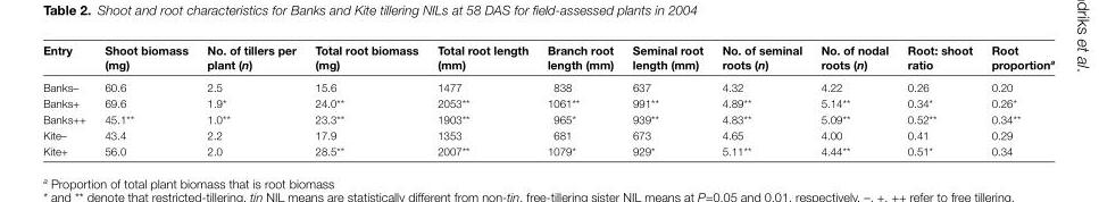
<table><thead><tr><td>Entry</td><td>Shoot biomass (mg)</td><td>No. of tillers per plant (n)</td><td>Total root biomass (mg)</td><td>Total root length (mm)</td><td>Branch root length (mm)</td><td>Seminal root length (mm)</td><td>No. of seminal roots (n)</td><td>No. of nodal roots (n)</td><td>Root: shoot ratio</td><td>Root proportion<sup>a</sup></td></tr></thead><tbody><tr><td>Banks–</td><td>60.6</td><td>2.5</td><td>15.6</td><td>1477</td><td>838</td><td>637</td><td>4.32</td><td>4.22</td><td>0.26</td><td>0.20</td></tr><tr><td>Banks+</td><td>69.6</td><td>1.9*</td><td>24.0**</td><td>2053**</td><td>1061**</td><td>991**</td><td>4.89**</td><td>5.14**</td><td>0.34*</td><td>0.26*</td></tr><tr><td>Banks++</td><td>45.1**</td><td>1.0**</td><td>23.3**</td><td>1903**</td><td>965*</td><td>939**</td><td>4.83**</td><td>5.09**</td><td>0.52**</td><td>0.34**</td></tr><tr><td>Kite–</td><td>43.4</td><td>2.2</td><td>17.9</td><td>1353</td><td>681</td><td>673</td><td>4.65</td><td>4.00</td><td>0.41</td><td>0.29</td></tr><tr><td>Kite+</td><td>56.0</td><td>2.0</td><td>28.5**</td><td>2007**</td><td>1079*</td><td>929*</td><td>5.11**</td><td>4.44**</td><td>0.51*</td><td>0.34</td></tr></tbody></table>